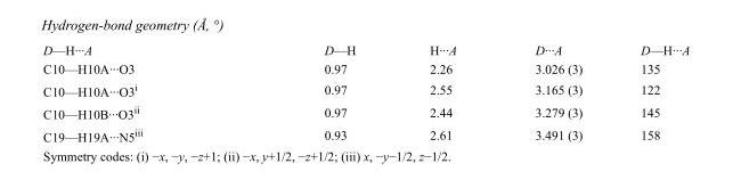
<table><tbody><tr><td>D—H···A</td><td>D—H</td><td>H···A</td><td>D···A</td><td>D—H···A</td></tr><tr><td>C10—H10A···O3</td><td>0.97</td><td>2.26</td><td>3.026 (3)</td><td>135</td></tr><tr><td>C10—H10A···O3<sup>i</sup></td><td>0.97</td><td>2.55</td><td>3.165 (3)</td><td>122</td></tr><tr><td>C10—H10B···O3<sup>ii</sup></td><td>0.97</td><td>2.44</td><td>3.279 (3)</td><td>145</td></tr><tr><td>C19—H19A···N5<sup>iii</sup></td><td>0.93</td><td>2.61</td><td>3.491 (3)</td><td>158</td></tr></tbody></table>